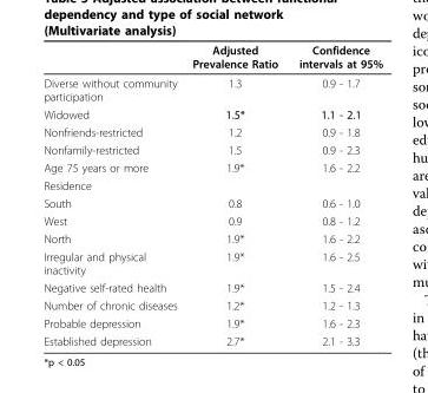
<table><thead><tr><td></td><td>Adjusted Prevalence Ratio</td><td>Confidence intervals at 95%</td></tr></thead><tbody><tr><td>Diverse without community participation</td><td>1.3</td><td>0.9 - 1.7</td></tr><tr><td>Widowed</td><td>1.5*</td><td>1.1 - 2.1</td></tr><tr><td>Nonfriends-restricted</td><td>1.2</td><td>0.9 - 1.8</td></tr><tr><td>Nonfamily-restricted</td><td>1.5</td><td>0.9 - 2.3</td></tr><tr><td>Age 75 years or more</td><td>1.9*</td><td>1.6 - 2.2</td></tr><tr><td colspan="3">Residence</td></tr><tr><td>South</td><td>0.8</td><td>0.6 - 1.0</td></tr><tr><td>West</td><td>0.9</td><td>0.8 - 1.2</td></tr><tr><td>North</td><td>1.9*</td><td>1.6 - 2.2</td></tr><tr><td>Irregular and physical inactivity</td><td>1.9*</td><td>1.6 - 2.5</td></tr><tr><td>Negative self-rated health</td><td>1.9*</td><td>1.5 - 2.4</td></tr><tr><td>Number of chronic diseases</td><td>1.2*</td><td>1.2 - 1.3</td></tr><tr><td>Probable depression</td><td>1.9*</td><td>1.6 - 2.3</td></tr><tr><td>Established depression</td><td>2.7*</td><td>2.1 - 3.3</td></tr></tbody></table>